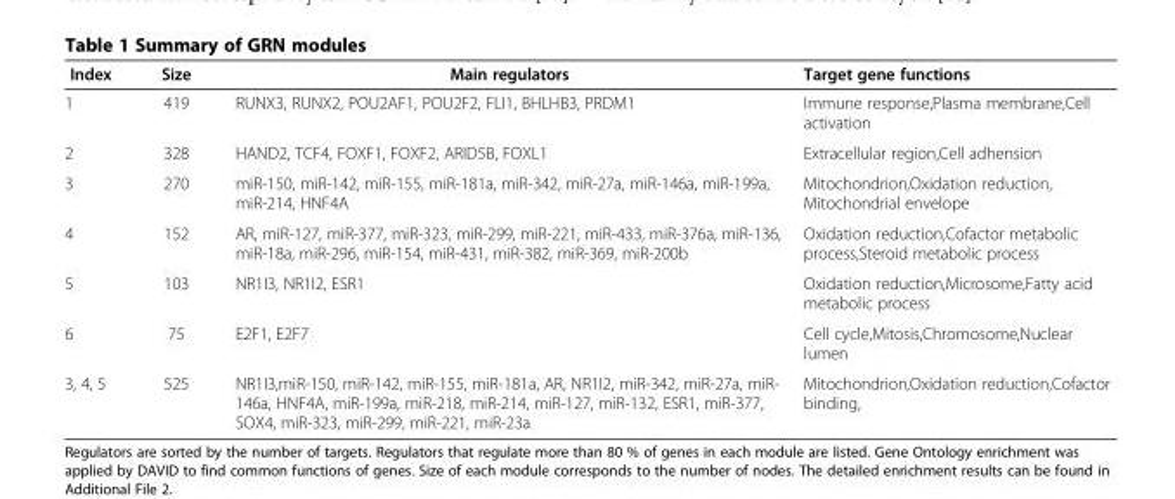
<table><thead><tr><td>Index</td><td>Size</td><td>Main regulators</td><td>Target gene functions</td></tr></thead><tbody><tr><td>1</td><td>419</td><td>RUNX3, RUNX2, POU2AF1, POU2F2, FLI1, BHLHB3, PRDM1</td><td>Immune response,Plasma membrane,Cell activation</td></tr><tr><td>2</td><td>328</td><td>HAND2, TCF4, FOXF1, FOXF2, ARID5B, FOXL1</td><td>Extracellular region,Cell adhension</td></tr><tr><td>3</td><td>270</td><td>miR-150, miR-142, miR-155, miR-181a, miR-342, miR-27a, miR-146a, miR-199a, miR-214, HNF4A</td><td>Mitochondrion,Oxidation reduction, Mitochondrial envelope</td></tr><tr><td>4</td><td>152</td><td>AR, miR-127, miR-377, miR-323, miR-299, miR-221, miR-433, miR-376a, miR-136, miR-18a, miR-296, miR-154, miR-431, miR-382, miR-369, miR-200b</td><td>Oxidation reduction,Cofactor metabolic process,Steroid metabolic process</td></tr><tr><td>5</td><td>103</td><td>NR1I3, NR1I2, ESR1</td><td>Oxidation reduction,Microsome,Fatty acid metabolic process</td></tr><tr><td>6</td><td>75</td><td>E2F1, E2F7</td><td>Cell cycle,Mitosis,Chromosome,Nuclear lumen</td></tr><tr><td>3, 4, 5</td><td>525</td><td>NR1I3,miR-150, miR-142, miR-155, miR-181a, AR, NR1I2, miR-342, miR-27a, miR- 146a, HNF4A, miR-199a, miR-218, miR-214, miR-127, miR-132, ESR1, miR-377, SOX4, miR-323, miR-299, miR-221, miR-23a</td><td>Mitochondrion,Oxidation reduction,Cofactor binding,</td></tr></tbody></table>